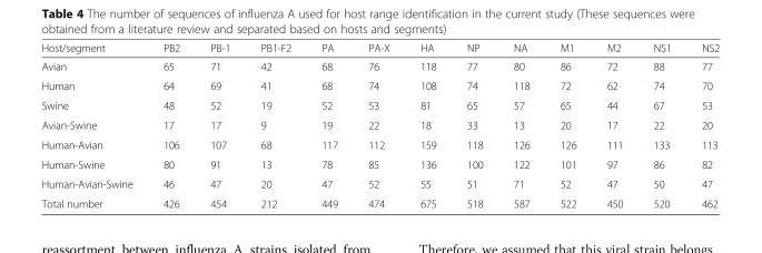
<table><thead><tr><td>Host/segment</td><td>PB2</td><td>PB-1</td><td>PB1-F2</td><td>PA</td><td>PA-X</td><td>HA</td><td>NP</td><td>NA</td><td>M1</td><td>M2</td><td>NS1</td><td>NS2</td></tr></thead><tbody><tr><td>Avian</td><td>65</td><td>71</td><td>42</td><td>68</td><td>76</td><td>118</td><td>77</td><td>80</td><td>86</td><td>72</td><td>88</td><td>77</td></tr><tr><td>Human</td><td>64</td><td>69</td><td>41</td><td>68</td><td>74</td><td>108</td><td>74</td><td>118</td><td>72</td><td>62</td><td>74</td><td>70</td></tr><tr><td>Swine</td><td>48</td><td>52</td><td>19</td><td>52</td><td>53</td><td>81</td><td>65</td><td>57</td><td>65</td><td>44</td><td>67</td><td>53</td></tr><tr><td>Avian-Swine</td><td>17</td><td>17</td><td>9</td><td>19</td><td>22</td><td>18</td><td>33</td><td>13</td><td>20</td><td>17</td><td>22</td><td>20</td></tr><tr><td>Human-Avian</td><td>106</td><td>107</td><td>68</td><td>117</td><td>112</td><td>159</td><td>118</td><td>126</td><td>126</td><td>111</td><td>133</td><td>113</td></tr><tr><td>Human-Swine</td><td>80</td><td>91</td><td>13</td><td>78</td><td>85</td><td>136</td><td>100</td><td>122</td><td>101</td><td>97</td><td>86</td><td>82</td></tr><tr><td>Human-Avian-Swine</td><td>46</td><td>47</td><td>20</td><td>47</td><td>52</td><td>55</td><td>51</td><td>71</td><td>52</td><td>47</td><td>50</td><td>47</td></tr><tr><td>Total number</td><td>426</td><td>454</td><td>212</td><td>449</td><td>474</td><td>675</td><td>518</td><td>587</td><td>522</td><td>450</td><td>520</td><td>462</td></tr></tbody></table>